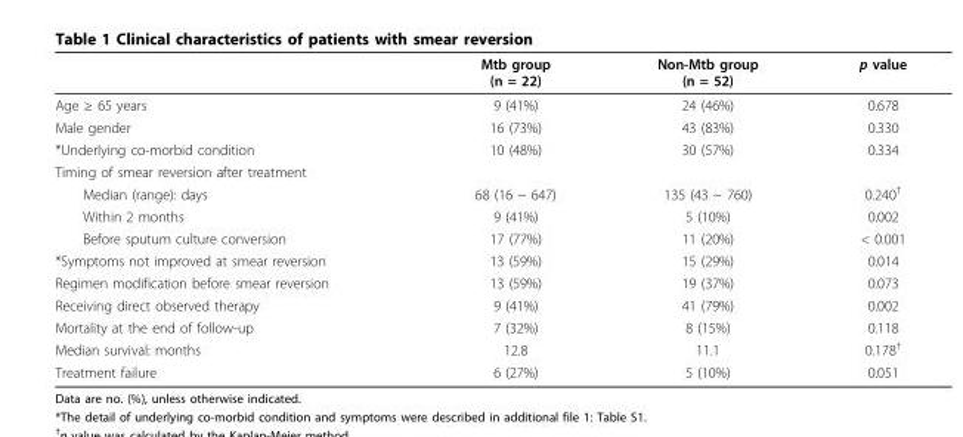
<table><thead><tr><td></td><td>Mtb group (n = 22)</td><td>Non-Mtb group (n = 52)</td><td>p value</td></tr></thead><tbody><tr><td>Age ≥ 65 years</td><td>9 (41%)</td><td>24 (46%)</td><td>0.678</td></tr><tr><td>Male gender</td><td>16 (73%)</td><td>43 (83%)</td><td>0.330</td></tr><tr><td>*Underlying co-morbid condition</td><td>10 (48%)</td><td>30 (57%)</td><td>0.334</td></tr><tr><td colspan="4">Timing of smear reversion after treatment</td></tr><tr><td>Median (range): days</td><td>68 (16 ~ 647)</td><td>135 (43 ~ 760)</td><td>0.240<sup>†</sup></td></tr><tr><td>Within 2 months</td><td>9 (41%)</td><td>5 (10%)</td><td>0.002</td></tr><tr><td>Before sputum culture conversion</td><td>17 (77%)</td><td>11 (20%)</td><td>&lt; 0.001</td></tr><tr><td>*Symptoms not improved at smear reversion</td><td>13 (59%)</td><td>15 (29%)</td><td>0.014</td></tr><tr><td>Regimen modification before smear reversion</td><td>13 (59%)</td><td>19 (37%)</td><td>0.073</td></tr><tr><td>Receiving direct observed therapy</td><td>9 (41%)</td><td>41 (79%)</td><td>0.002</td></tr><tr><td>Mortality at the end of follow-up</td><td>7 (32%)</td><td>8 (15%)</td><td>0.118</td></tr><tr><td>Median survival: months</td><td>12.8</td><td>11.1</td><td>0.178<sup>†</sup></td></tr><tr><td>Treatment failure</td><td>6 (27%)</td><td>5 (10%)</td><td>0.051</td></tr></tbody></table>